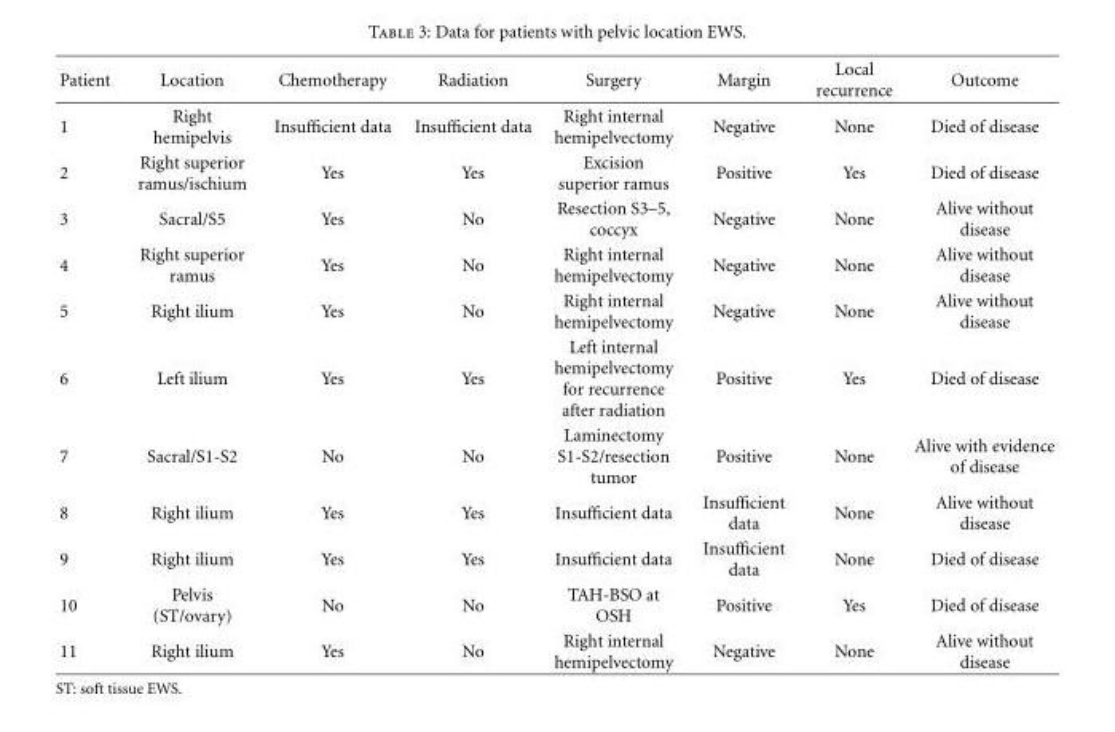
<table><thead><tr><td>Patient</td><td>Location</td><td>Chemotherapy</td><td>Radiation</td><td>Surgery</td><td>Margin</td><td>Local recurrence</td><td>Outcome</td></tr></thead><tbody><tr><td>1</td><td>Right hemipelvis</td><td>Insufficient data</td><td>Insufficient data</td><td>Right internal hemipelvectomy</td><td>Negative</td><td>None</td><td>Died of disease</td></tr><tr><td>2</td><td>Right superior ramus/ischium</td><td>Yes</td><td>Yes</td><td>Excision superior ramus</td><td>Positive</td><td>Yes</td><td>Died of disease</td></tr><tr><td>3</td><td>Sacral/S5</td><td>Yes</td><td>No</td><td>Resection S3–5, coccyx</td><td>Negative</td><td>None</td><td>Alive without disease</td></tr><tr><td>4</td><td>Right superior ramus</td><td>Yes</td><td>No</td><td>Right internal hemipelvectomy</td><td>Negative</td><td>None</td><td>Alive without disease</td></tr><tr><td>5</td><td>Right ilium</td><td>Yes</td><td>No</td><td>Right internal hemipelvectomy</td><td>Negative</td><td>None</td><td>Alive without disease</td></tr><tr><td>6</td><td>Left ilium</td><td>Yes</td><td>Yes</td><td>Left internal hemipelvectomy for recurrence after radiation</td><td>Positive</td><td>Yes</td><td>Died of disease</td></tr><tr><td>7</td><td>Sacral/S1-S2</td><td>No</td><td>No</td><td>Laminectomy S1-S2/resection tumor</td><td>Positive</td><td>None</td><td>Alive with evidence of disease</td></tr><tr><td>8</td><td>Right ilium</td><td>Yes</td><td>Yes</td><td>Insufficient data</td><td>Insufficient data</td><td>None</td><td>Alive without disease</td></tr><tr><td>9</td><td>Right ilium</td><td>Yes</td><td>Yes</td><td>Insufficient data</td><td>Insufficient data</td><td>None</td><td>Died of disease</td></tr><tr><td>10</td><td>Pelvis (ST/ovary)</td><td>No</td><td>No</td><td>TAH-BSO at OSH</td><td>Positive</td><td>Yes</td><td>Died of disease</td></tr><tr><td>11</td><td>Right ilium</td><td>Yes</td><td>No</td><td>Right internal hemipelvectomy</td><td>Negative</td><td>None</td><td>Alive without disease</td></tr></tbody></table>